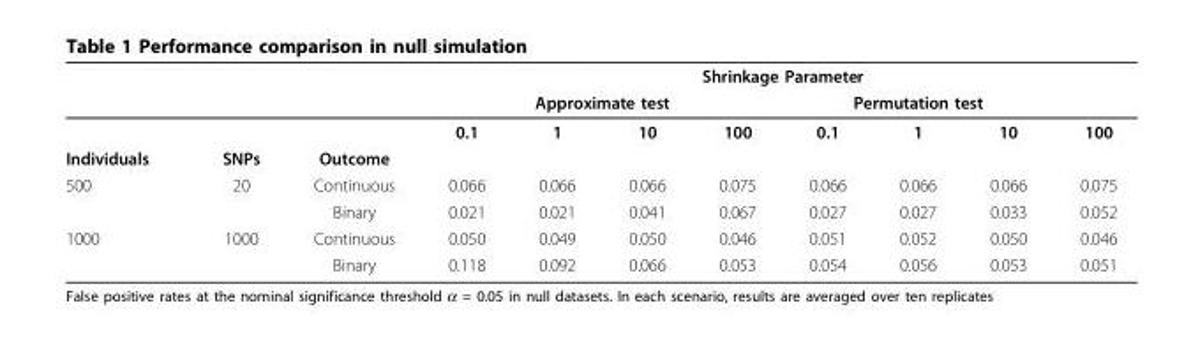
<table><thead><tr><td rowspan="3"></td><td rowspan="3"></td><td rowspan="3"></td><td colspan="8">Shrinkage Parameter</td></tr><tr><td colspan="4">Approximate test</td><td colspan="3">Permutation test</td><td rowspan="2">100</td></tr><tr><td>0.1</td><td>1</td><td>10</td><td>100</td><td>0.1</td><td>1</td><td>10</td></tr></thead><tbody><tr><td>Individuals</td><td>SNPs</td><td>Outcome</td><td></td><td></td><td></td><td></td><td></td><td></td><td></td><td></td></tr><tr><td rowspan="2">500</td><td>20</td><td>Continuous</td><td>0.066</td><td>0.066</td><td>0.066</td><td>0.075</td><td>0.066</td><td>0.066</td><td>0.066</td><td>0.075</td></tr><tr><td></td><td>Binary</td><td>0.021</td><td>0.021</td><td>0.041</td><td>0.067</td><td>0.027</td><td>0.027</td><td>0.033</td><td>0.052</td></tr><tr><td rowspan="2">1000</td><td>1000</td><td>Continuous</td><td>0.050</td><td>0.049</td><td>0.050</td><td>0.046</td><td>0.051</td><td>0.052</td><td>0.050</td><td>0.046</td></tr><tr><td></td><td>Binary</td><td>0.118</td><td>0.092</td><td>0.066</td><td>0.053</td><td>0.054</td><td>0.056</td><td>0.053</td><td>0.051</td></tr></tbody></table>